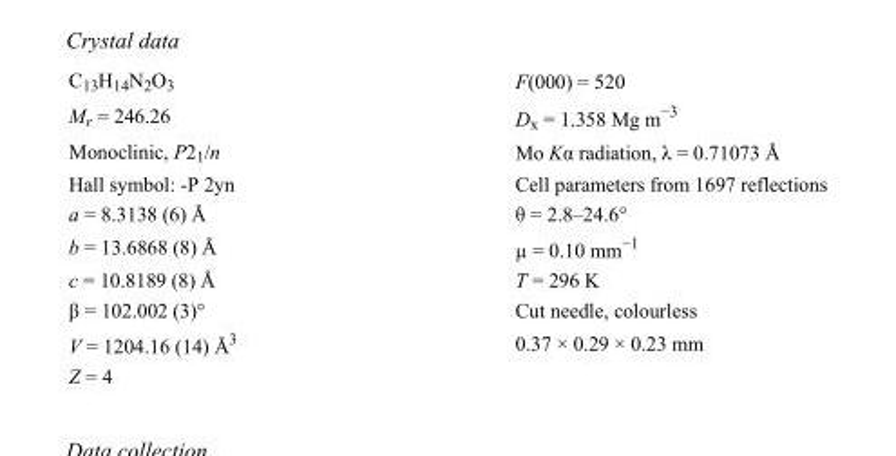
<table><tbody><tr><td>C<sub>13</sub>H<sub>14</sub>N<sub>2</sub>O<sub>3</sub></td><td>F(000) = 520</td></tr><tr><td>M<sub>r</sub> = 246.26</td><td>D<sub>x</sub> = 1.358 Mg m<sup>−3</sup></td></tr><tr><td>Monoclinic, P2<sub>1</sub>/n</td><td>Mo Kα radiation, λ = 0.71073 Å</td></tr><tr><td>Hall symbol: -P 2yn</td><td>Cell parameters from 1697 reflections</td></tr><tr><td>a = 8.3138 (6) Å</td><td>θ = 2.8–24.6°</td></tr><tr><td>b = 13.6868 (8) Å</td><td>µ = 0.10 mm<sup>−1</sup></td></tr><tr><td>c = 10.8189 (8) Å</td><td>T = 296 K</td></tr><tr><td>β = 102.002 (3)°</td><td>Cut needle, colourless</td></tr><tr><td>V = 1204.16 (14) Å<sup>3</sup></td><td>0.37 × 0.29 × 0.23 mm</td></tr><tr><td>Z = 4</td><td></td></tr></tbody></table>